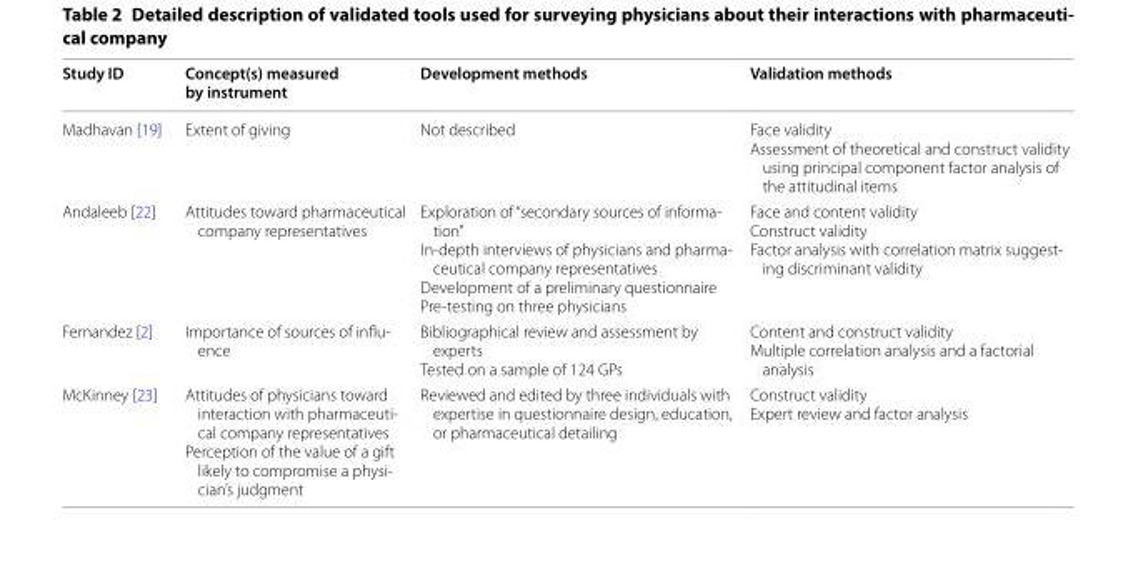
<table><thead><tr><td>Study ID</td><td>Concept(s) measured by instrument</td><td>Development methods</td><td>Validation methods</td></tr></thead><tbody><tr><td>Madhavan [19]</td><td>Extent of giving</td><td>Not described</td><td>Face validity Assessment of theoretical and construct validity using principal component factor analysis of the attitudinal items</td></tr><tr><td>Andaleeb [22]</td><td>Attitudes toward pharmaceutical company representatives</td><td>Exploration of “secondary sources of informa‑ tion” In‑depth interviews of physicians and pharma‑ ceutical company representatives Development of a preliminary questionnaire Pre‑testing on three physicians</td><td>Face and content validity Construct validity Factor analysis with correlation matrix suggest‑ ing discriminant validity</td></tr><tr><td>Fernandez [2]</td><td>Importance of sources of influ‑ ence</td><td>Bibliographical review and assessment by experts Tested on a sample of 124 GPs</td><td>Content and construct validity Multiple correlation analysis and a factorial analysis</td></tr><tr><td>McKinney [23]</td><td>Attitudes of physicians toward interaction with pharmaceuti‑ cal company representatives Perception of the value of a gift likely to compromise a physi‑ cian’s judgment</td><td>Reviewed and edited by three individuals with expertise in questionnaire design, education, or pharmaceutical detailing</td><td>Construct validity Expert review and factor analysis</td></tr></tbody></table>